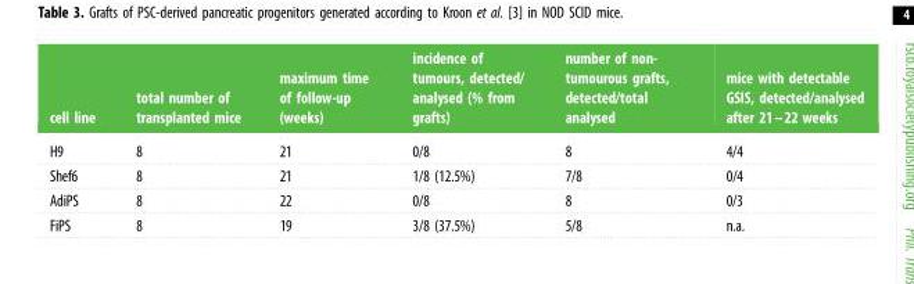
<table><thead><tr><td>cell line</td><td>total number of transplanted mice</td><td>maximum time of follow-up (weeks)</td><td>incidence of tumours, detected/ analysed (% from grafts)</td><td>number of non- tumourous grafts, detected/total analysed</td><td>mice with detectable GSIS, detected/analysed after 21–22 weeks</td></tr></thead><tbody><tr><td>H9</td><td>8</td><td>21</td><td>0/8</td><td>8</td><td>4/4</td></tr><tr><td>Shef6</td><td>8</td><td>21</td><td>1/8 (12.5%)</td><td>7/8</td><td>0/4</td></tr><tr><td>AdiPS</td><td>8</td><td>22</td><td>0/8</td><td>8</td><td>0/3</td></tr><tr><td>FiPS</td><td>8</td><td>19</td><td>3/8 (37.5%)</td><td>5/8</td><td>n.a.</td></tr></tbody></table>